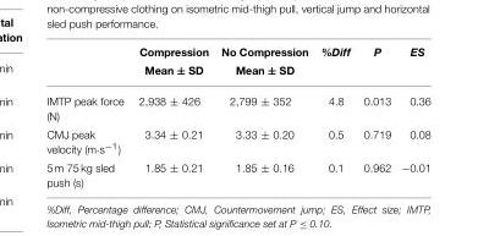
<table><thead><tr><td rowspan="2"></td><td rowspan="2">Compression Mean ± SD</td><td rowspan="2">No Compression Mean ± SD</td><td rowspan="2">%Diff</td><td rowspan="2">P</td><td rowspan="2">ES</td></tr><tr></tr></thead><tbody><tr><td>IMTP peak force (N)</td><td>2,938 ± 426</td><td>2,799 ± 352</td><td>4.8</td><td>0.013</td><td>0.36</td></tr><tr><td>CMJ peak velocity (m·s<sup>−1</sup>)</td><td>3.34 ± 0.21</td><td>3.33 ± 0.20</td><td>0.5</td><td>0.719</td><td>0.08</td></tr><tr><td>5 m 75 kg sled push (s)</td><td>1.85 ± 0.21</td><td>1.85 ± 0.16</td><td>0.1</td><td>0.962</td><td>−0.01</td></tr></tbody></table>